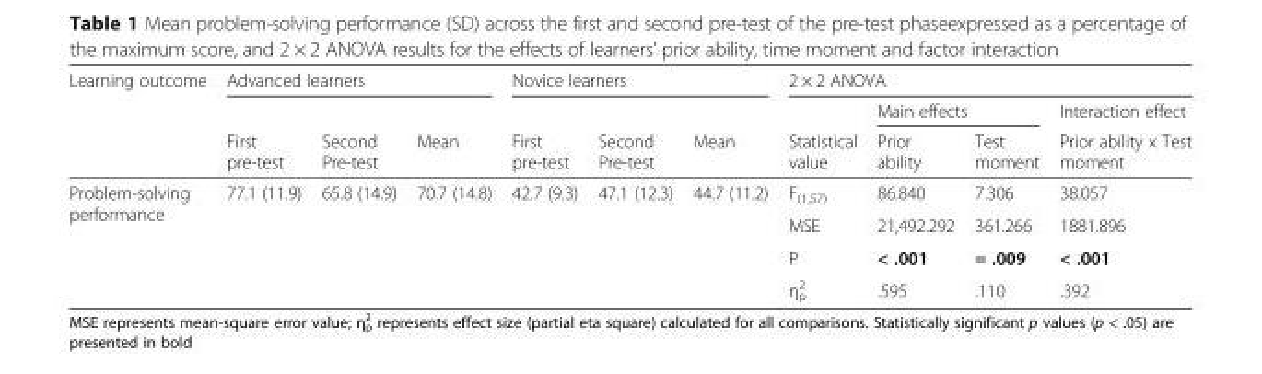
<table><thead><tr><td rowspan="3">Learning outcome</td><td colspan="3">Advanced learners</td><td colspan="3">Novice learners</td><td colspan="4">2 × 2 ANOVA</td></tr><tr><td rowspan="2">First pre-test</td><td rowspan="2">Second Pre-test</td><td rowspan="2">Mean</td><td rowspan="2">First pre-test</td><td rowspan="2">Second Pre-test</td><td rowspan="2">Mean</td><td rowspan="2">Statistical value</td><td colspan="2">Main effects</td><td rowspan="2">Interaction effect Prior ability x Test moment</td></tr><tr><td>Prior ability</td><td>Test moment</td></tr></thead><tbody><tr><td rowspan="4">Problem-solving performance</td><td rowspan="4">77.1 (11.9)</td><td rowspan="4">65.8 (14.9)</td><td rowspan="4">70.7 (14.8)</td><td rowspan="4">42.7 (9.3)</td><td rowspan="4">47.1 (12.3)</td><td rowspan="4">44.7 (11.2)</td><td>F<sub>(1,57)</sub></td><td>86.840</td><td>7.306</td><td>38.057</td></tr><tr><td>MSE</td><td>21,492.292</td><td>361.266</td><td>1881.896</td></tr><tr><td>P</td><td>&lt; .001</td><td>= .009</td><td>&lt; .001</td></tr><tr><td>η<sub>p</sub> <sup>2</sup></td><td>.595</td><td>.110</td><td>.392</td></tr></tbody></table>